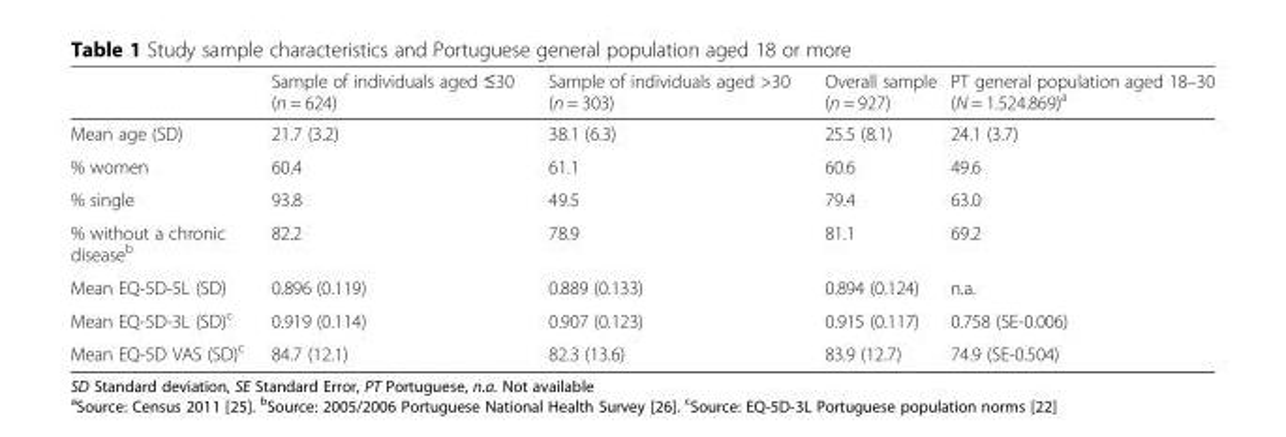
<table><thead><tr><td></td><td>Sample of individuals aged ≤30 (n = 624)</td><td>Sample of individuals aged &gt;30 (n = 303)</td><td>Overall sample (n = 927)</td><td>PT general population aged 18–30 (N = 1.524.869)<sup>a</sup></td></tr></thead><tbody><tr><td>Mean age (SD)</td><td>21.7 (3.2)</td><td>38.1 (6.3)</td><td>25.5 (8.1)</td><td>24.1 (3.7)</td></tr><tr><td>% women</td><td>60.4</td><td>61.1</td><td>60.6</td><td>49.6</td></tr><tr><td>% single</td><td>93.8</td><td>49.5</td><td>79.4</td><td>63.0</td></tr><tr><td>% without a chronic disease<sup>b</sup></td><td>82.2</td><td>78.9</td><td>81.1</td><td>69.2</td></tr><tr><td>Mean EQ-5D-5L (SD)</td><td>0.896 (0.119)</td><td>0.889 (0.133)</td><td>0.894 (0.124)</td><td>n.a.</td></tr><tr><td>Mean EQ-5D-3L (SD)<sup>c</sup></td><td>0.919 (0.114)</td><td>0.907 (0.123)</td><td>0.915 (0.117)</td><td>0.758 (SE-0.006)</td></tr><tr><td>Mean EQ-5D VAS (SD)<sup>c</sup></td><td>84.7 (12.1)</td><td>82.3 (13.6)</td><td>83.9 (12.7)</td><td>74.9 (SE-0.504)</td></tr></tbody></table>